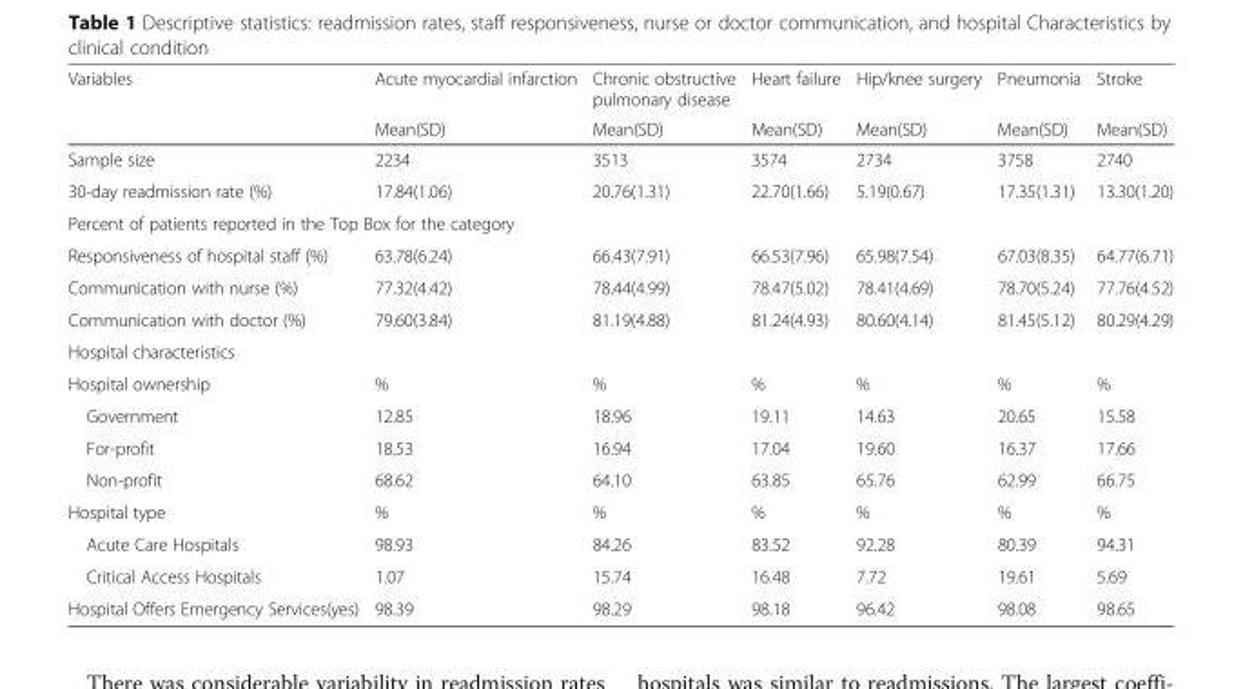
<table><thead><tr><td rowspan="2">Variables</td><td rowspan="2">Acute myocardial infarction Mean(SD)</td><td rowspan="2">Chronic obstructive pulmonary disease Mean(SD)</td><td rowspan="2">Heart failure Mean(SD)</td><td rowspan="2">Hip/knee surgery Mean(SD)</td><td rowspan="2">Pneumonia Mean(SD)</td><td rowspan="2">Stroke Mean(SD)</td></tr><tr></tr></thead><tbody><tr><td>Sample size</td><td>2234</td><td>3513</td><td>3574</td><td>2734</td><td>3758</td><td>2740</td></tr><tr><td>30-day readmission rate (%)</td><td>17.84(1.06)</td><td>20.76(1.31)</td><td>22.70(1.66)</td><td>5.19(0.67)</td><td>17.35(1.31)</td><td>13.30(1.20)</td></tr><tr><td colspan="7">Percent of patients reported in the Top Box for the category</td></tr><tr><td>Responsiveness of hospital staff (%)</td><td>63.78(6.24)</td><td>66.43(7.91)</td><td>66.53(7.96)</td><td>65.98(7.54)</td><td>67.03(8.35)</td><td>64.77(6.71)</td></tr><tr><td>Communication with nurse (%)</td><td>77.32(4.42)</td><td>78.44(4.99)</td><td>78.47(5.02)</td><td>78.41(4.69)</td><td>78.70(5.24)</td><td>77.76(4.52)</td></tr><tr><td>Communication with doctor (%)</td><td>79.60(3.84)</td><td>81.19(4.88)</td><td>81.24(4.93)</td><td>80.60(4.14)</td><td>81.45(5.12)</td><td>80.29(4.29)</td></tr><tr><td colspan="7">Hospital characteristics</td></tr><tr><td>Hospital ownership</td><td>%</td><td>%</td><td>%</td><td>%</td><td>%</td><td>%</td></tr><tr><td>Government</td><td>12.85</td><td>18.96</td><td>19.11</td><td>14.63</td><td>20.65</td><td>15.58</td></tr><tr><td>For-profit</td><td>18.53</td><td>16.94</td><td>17.04</td><td>19.60</td><td>16.37</td><td>17.66</td></tr><tr><td>Non-profit</td><td>68.62</td><td>64.10</td><td>63.85</td><td>65.76</td><td>62.99</td><td>66.75</td></tr><tr><td>Hospital type</td><td>%</td><td>%</td><td>%</td><td>%</td><td>%</td><td>%</td></tr><tr><td>Acute Care Hospitals</td><td>98.93</td><td>84.26</td><td>83.52</td><td>92.28</td><td>80.39</td><td>94.31</td></tr><tr><td>Critical Access Hospitals</td><td>1.07</td><td>15.74</td><td>16.48</td><td>7.72</td><td>19.61</td><td>5.69</td></tr><tr><td>Hospital Offers Emergency Services(yes)</td><td>98.39</td><td>98.29</td><td>98.18</td><td>96.42</td><td>98.08</td><td>98.65</td></tr></tbody></table>